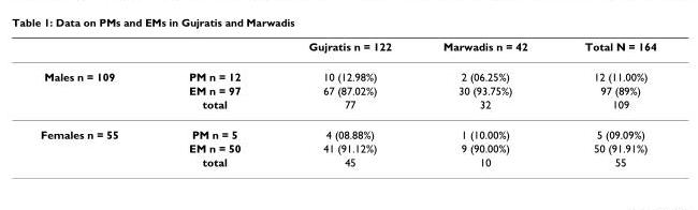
<table><thead><tr><td></td><td></td><td>Gujratis n = 122</td><td>Marwadis n = 42</td><td>Total N = 164</td></tr></thead><tbody><tr><td rowspan="3">Males n = 109</td><td>PM n = 12</td><td>10 (12.98%)</td><td>2 (06.25%)</td><td>12 (11.00%)</td></tr><tr><td>EM n = 97</td><td>67 (87.02%)</td><td>30 (93.75%)</td><td>97 (89%)</td></tr><tr><td>total</td><td>77</td><td>32</td><td>109</td></tr><tr><td rowspan="3">Females n = 55</td><td>PM n = 5</td><td>4 (08.88%)</td><td>1 (10.00%)</td><td>5 (09.09%)</td></tr><tr><td>EM n = 50</td><td>41 (91.12%)</td><td>9 (90.00%)</td><td>50 (91.91%)</td></tr><tr><td>total</td><td>45</td><td>10</td><td>55</td></tr></tbody></table>